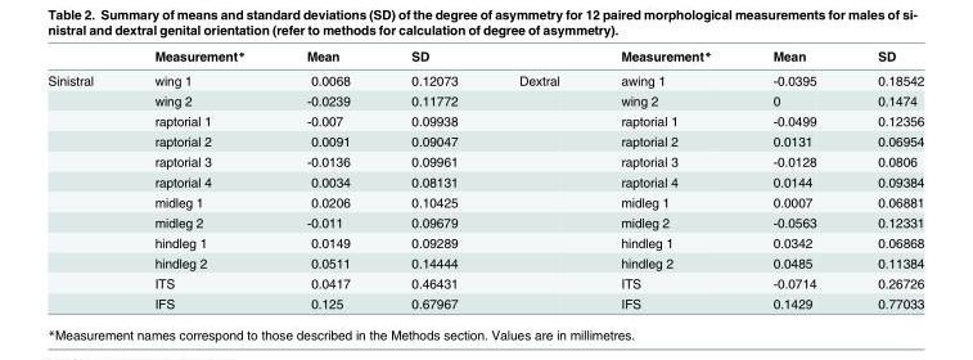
<table><thead><tr><td></td><td>Measurement*</td><td>Mean</td><td>SD</td><td></td><td>Measurement*</td><td>Mean</td><td>SD</td></tr></thead><tbody><tr><td rowspan="12">Sinistral</td><td>wing 1</td><td>0.0068</td><td>0.12073</td><td>Dextral</td><td>awing 1</td><td>-0.0395</td><td>0.18542</td></tr><tr><td>wing 2</td><td>-0.0239</td><td>0.11772</td><td></td><td>wing 2</td><td>0</td><td>0.1474</td></tr><tr><td>raptorial 1</td><td>-0.007</td><td>0.09938</td><td></td><td>raptorial 1</td><td>-0.0499</td><td>0.12356</td></tr><tr><td>raptorial 2</td><td>0.0091</td><td>0.09047</td><td></td><td>raptorial 2</td><td>0.0131</td><td>0.06954</td></tr><tr><td>raptorial 3</td><td>-0.0136</td><td>0.09961</td><td></td><td>raptorial 3</td><td>-0.0128</td><td>0.0806</td></tr><tr><td>raptorial 4</td><td>0.0034</td><td>0.08131</td><td></td><td>raptorial 4</td><td>0.0144</td><td>0.09384</td></tr><tr><td>midleg 1</td><td>0.0206</td><td>0.10425</td><td></td><td>midleg 1</td><td>0.0007</td><td>0.06881</td></tr><tr><td>midleg 2</td><td>-0.011</td><td>0.09679</td><td></td><td>midleg 2</td><td>-0.0563</td><td>0.12331</td></tr><tr><td>hindleg 1</td><td>0.0149</td><td>0.09289</td><td></td><td>hindleg 1</td><td>0.0342</td><td>0.06868</td></tr><tr><td>hindleg 2</td><td>0.0511</td><td>0.14444</td><td></td><td>hindleg 2</td><td>0.0485</td><td>0.11384</td></tr><tr><td>ITS</td><td>0.0417</td><td>0.46431</td><td></td><td>ITS</td><td>-0.0714</td><td>0.26726</td></tr><tr><td>IFS</td><td>0.125</td><td>0.67967</td><td></td><td>IFS</td><td>0.1429</td><td>0.77033</td></tr></tbody></table>